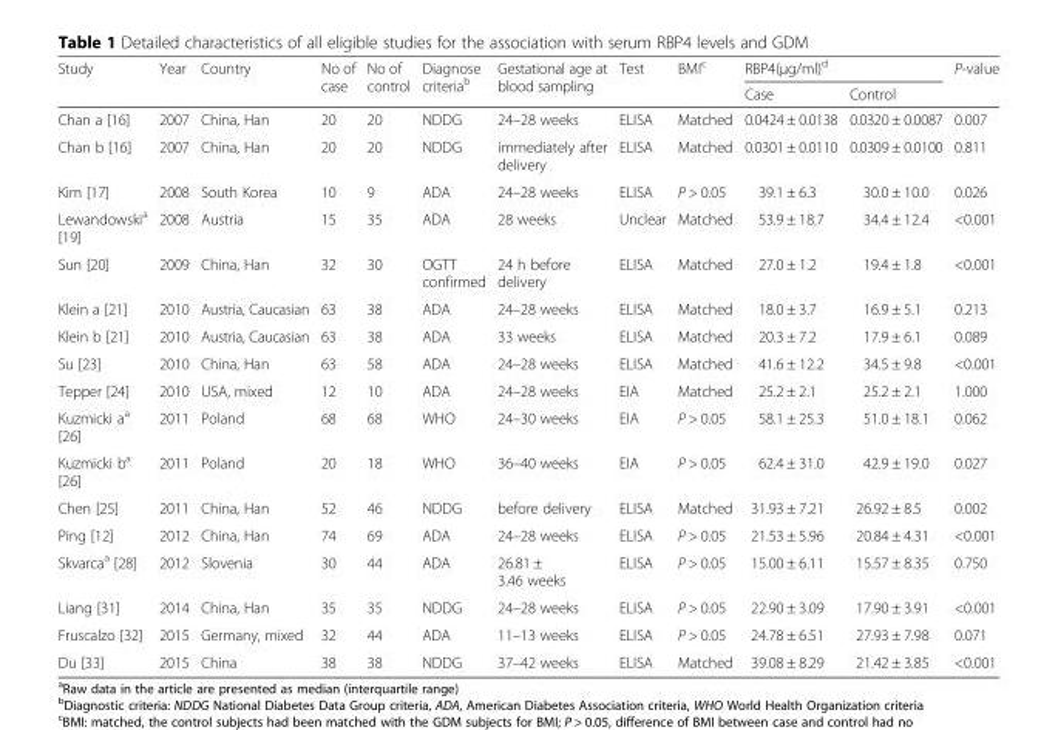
<table><thead><tr><td rowspan="2">Study</td><td rowspan="2">Year</td><td rowspan="2">Country</td><td rowspan="2">No of case</td><td rowspan="2">No of control</td><td rowspan="2">Diagnose criteria<sup>b</sup></td><td rowspan="2">Gestational age at blood sampling</td><td rowspan="2">Test</td><td rowspan="2">BMI<sup>c</sup></td><td colspan="2">RBP4(μg/ml)<sup>d</sup></td><td rowspan="2">P-value</td></tr><tr><td>Case</td><td>Control</td></tr></thead><tbody><tr><td>Chan a [16]</td><td>2007</td><td>China, Han</td><td>20</td><td>20</td><td>NDDG</td><td>24–28 weeks</td><td>ELISA</td><td>Matched</td><td>0.0424 ± 0.0138</td><td>0.0320 ± 0.0087</td><td>0.007</td></tr><tr><td>Chan b [16]</td><td>2007</td><td>China, Han</td><td>20</td><td>20</td><td>NDDG</td><td>immediately after delivery</td><td>ELISA</td><td>Matched</td><td>0.0301 ± 0.0110</td><td>0.0309 ± 0.0100</td><td>0.811</td></tr><tr><td>Kim [17]</td><td>2008</td><td>South Korea</td><td>10</td><td>9</td><td>ADA</td><td>24–28 weeks</td><td>ELISA</td><td>P &gt; 0.05</td><td>39.1 ± 6.3</td><td>30.0 ± 10.0</td><td>0.026</td></tr><tr><td>Lewandowski<sup>a</sup> [19]</td><td>2008</td><td>Austria</td><td>15</td><td>35</td><td>ADA</td><td>28 weeks</td><td>Unclear</td><td>Matched</td><td>53.9 ± 18.7</td><td>34.4 ± 12.4</td><td>&lt;0.001</td></tr><tr><td>Sun [20]</td><td>2009</td><td>China, Han</td><td>32</td><td>30</td><td>OGTT confirmed</td><td>24 h before delivery</td><td>ELISA</td><td>Matched</td><td>27.0 ± 1.2</td><td>19.4 ± 1.8</td><td>&lt;0.001</td></tr><tr><td>Klein a [21]</td><td>2010</td><td>Austria, Caucasian</td><td>63</td><td>38</td><td>ADA</td><td>24–28 weeks</td><td>ELISA</td><td>Matched</td><td>18.0 ± 3.7</td><td>16.9 ± 5.1</td><td>0.213</td></tr><tr><td>Klein b [21]</td><td>2010</td><td>Austria, Caucasian</td><td>63</td><td>38</td><td>ADA</td><td>33 weeks</td><td>ELISA</td><td>Matched</td><td>20.3 ± 7.2</td><td>17.9 ± 6.1</td><td>0.089</td></tr><tr><td>Su [23]</td><td>2010</td><td>China, Han</td><td>63</td><td>58</td><td>ADA</td><td>24–28 weeks</td><td>ELISA</td><td>Matched</td><td>41.6 ± 12.2</td><td>34.5 ± 9.8</td><td>&lt;0.001</td></tr><tr><td>Tepper [24]</td><td>2010</td><td>USA, mixed</td><td>12</td><td>10</td><td>ADA</td><td>24–28 weeks</td><td>EIA</td><td>Matched</td><td>25.2 ± 2.1</td><td>25.2 ± 2.1</td><td>1.000</td></tr><tr><td>Kuzmicki a<sup>a</sup> [26]</td><td>2011</td><td>Poland</td><td>68</td><td>68</td><td>WHO</td><td>24–30 weeks</td><td>EIA</td><td>P &gt; 0.05</td><td>58.1 ± 25.3</td><td>51.0 ± 18.1</td><td>0.062</td></tr><tr><td>Kuzmicki b<sup>a</sup> [26]</td><td>2011</td><td>Poland</td><td>20</td><td>18</td><td>WHO</td><td>36–40 weeks</td><td>EIA</td><td>P &gt; 0.05</td><td>62.4 ± 31.0</td><td>42.9 ± 19.0</td><td>0.027</td></tr><tr><td>Chen [25]</td><td>2011</td><td>China, Han</td><td>52</td><td>46</td><td>NDDG</td><td>before delivery</td><td>ELISA</td><td>Matched</td><td>31.93 ± 7.21</td><td>26.92 ± 8.5</td><td>0.002</td></tr><tr><td>Ping [12]</td><td>2012</td><td>China, Han</td><td>74</td><td>69</td><td>ADA</td><td>24–28 weeks</td><td>ELISA</td><td>P &gt; 0.05</td><td>21.53 ± 5.96</td><td>20.84 ± 4.31</td><td>&lt;0.001</td></tr><tr><td>Skvarca<sup>a</sup> [28]</td><td>2012</td><td>Slovenia</td><td>30</td><td>44</td><td>ADA</td><td>26.81 ± 3.46 weeks</td><td>ELISA</td><td>P &gt; 0.05</td><td>15.00 ± 6.11</td><td>15.57 ± 8.35</td><td>0.750</td></tr><tr><td>Liang [31]</td><td>2014</td><td>China, Han</td><td>35</td><td>35</td><td>NDDG</td><td>24–28 weeks</td><td>ELISA</td><td>P &gt; 0.05</td><td>22.90 ± 3.09</td><td>17.90 ± 3.91</td><td>&lt;0.001</td></tr><tr><td>Fruscalzo [32]</td><td>2015</td><td>Germany, mixed</td><td>32</td><td>44</td><td>ADA</td><td>11–13 weeks</td><td>ELISA</td><td>P &gt; 0.05</td><td>24.78 ± 6.51</td><td>27.93 ± 7.98</td><td>0.071</td></tr><tr><td>Du [33]</td><td>2015</td><td>China</td><td>38</td><td>38</td><td>NDDG</td><td>37–42 weeks</td><td>ELISA</td><td>Matched</td><td>39.08 ± 8.29</td><td>21.42 ± 3.85</td><td>&lt;0.001</td></tr></tbody></table>